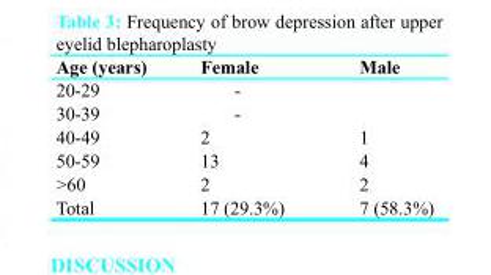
<table><thead><tr><td>Age (years)</td><td>Female</td><td>Male</td></tr></thead><tbody><tr><td colspan="3">20-29 -</td></tr><tr><td colspan="3">30-39 -</td></tr><tr><td>40-49</td><td>2</td><td>1</td></tr><tr><td>50-59</td><td>13</td><td>4</td></tr><tr><td>&gt;60</td><td>2</td><td>2</td></tr><tr><td>Total</td><td>17 (29.3%)</td><td>7 (58.3%)</td></tr></tbody></table>